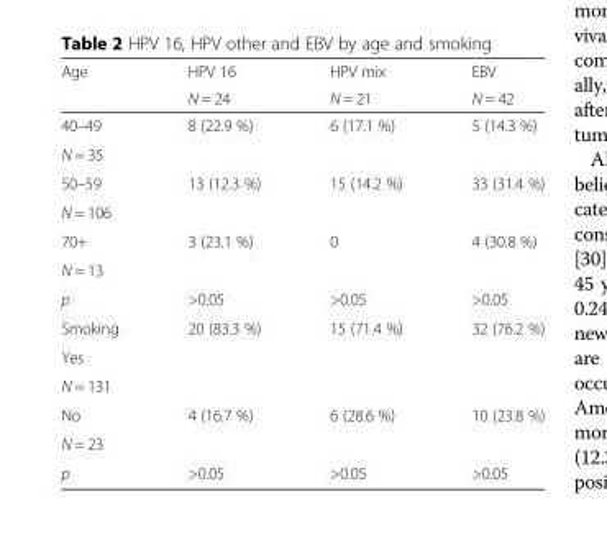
<table><thead><tr><td rowspan="2">Age</td><td rowspan="2">HPV 16 N = 24</td><td rowspan="2">HPV mix N = 21</td><td rowspan="2">EBV N = 42</td></tr><tr></tr></thead><tbody><tr><td>40–49</td><td rowspan="2">8 (22.9 %)</td><td rowspan="2">6 (17.1 %)</td><td rowspan="2">5 (14.3 %)</td></tr><tr><td>N = 35</td></tr><tr><td>50–59</td><td rowspan="2">13 (12.3 %)</td><td rowspan="2">15 (14.2 %)</td><td rowspan="2">33 (31.4 %)</td></tr><tr><td>N = 106</td></tr><tr><td>70+</td><td rowspan="2">3 (23.1 %)</td><td rowspan="2">0</td><td rowspan="2">4 (30.8 %)</td></tr><tr><td>N = 13</td></tr><tr><td>p</td><td>&gt;0.05</td><td>&gt;0.05</td><td>&gt;0.05</td></tr><tr><td>Smoking</td><td rowspan="3">20 (83.3 %)</td><td rowspan="3">15 (71.4 %)</td><td rowspan="3">32 (76.2 %)</td></tr><tr><td>Yes</td></tr><tr><td>N = 131</td></tr><tr><td>No</td><td rowspan="2">4 (16.7 %)</td><td rowspan="2">6 (28.6 %)</td><td rowspan="2">10 (23.8 %)</td></tr><tr><td>N = 23</td></tr><tr><td>p</td><td>&gt;0.05</td><td>&gt;0.05</td><td>&gt;0.05</td></tr></tbody></table>